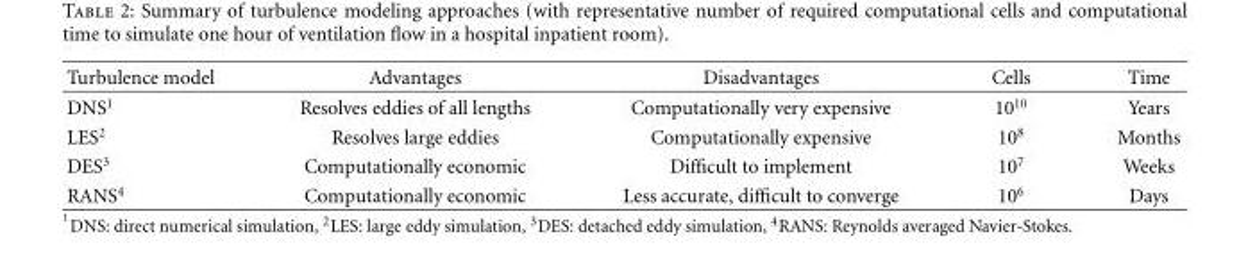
<table><thead><tr><td>Turbulence model</td><td>Advantages</td><td>Disadvantages</td><td>Cells</td><td>Time</td></tr></thead><tbody><tr><td>DNS<sup>1</sup></td><td>Resolves eddies of all lengths</td><td>Computationally very expensive</td><td>10<sup>10</sup></td><td>Years</td></tr><tr><td>LES<sup>2</sup></td><td>Resolves large eddies</td><td>Computationally expensive</td><td>10<sup>8</sup></td><td>Months</td></tr><tr><td>DES<sup>3</sup></td><td>Computationally economic</td><td>Difficult to implement</td><td>10<sup>7</sup></td><td>Weeks</td></tr><tr><td>RANS<sup>4</sup></td><td>Computationally economic</td><td>Less accurate, difficult to converge</td><td>10<sup>6</sup></td><td>Days</td></tr></tbody></table>